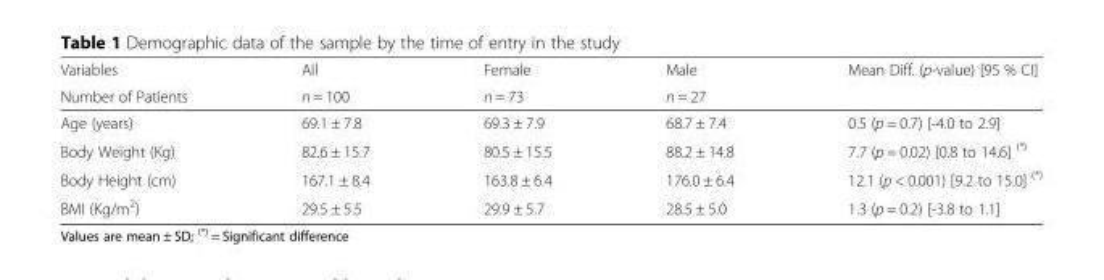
<table><thead><tr><td rowspan="2">Variables Number of Patients</td><td rowspan="2">All n = 100</td><td rowspan="2">Female n = 73</td><td rowspan="2">Male n = 27</td><td rowspan="2">Mean Diff. (p-value) [95 % CI]</td></tr><tr></tr></thead><tbody><tr><td>Age (years)</td><td>69.1 ± 7.8</td><td>69.3 ± 7.9</td><td>68.7 ± 7.4</td><td>0.5 (p = 0.7) [-4.0 to 2.9]</td></tr><tr><td>Body Weight (Kg)</td><td>82.6 ± 15.7</td><td>80.5 ± 15.5</td><td>88.2 ± 14.8</td><td>7.7 (p = 0.02) [0.8 to 14.6] <sup>(*)</sup></td></tr><tr><td>Body Height (cm)</td><td>167.1 ± 8.4</td><td>163.8 ± 6.4</td><td>176.0 ± 6.4</td><td>12.1 (p &lt; 0.001) [9.2 to 15.0] <sup>(*)</sup></td></tr><tr><td>BMI (Kg/m<sup>2</sup>)</td><td>29.5 ± 5.5</td><td>29.9 ± 5.7</td><td>28.5 ± 5.0</td><td>1.3 (p = 0.2) [-3.8 to 1.1]</td></tr></tbody></table>